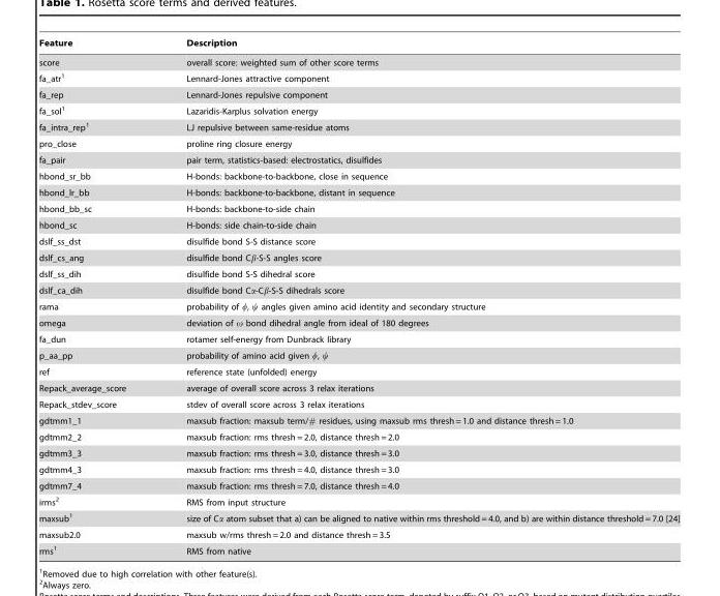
<table><thead><tr><td>Feature</td><td>Description</td></tr></thead><tbody><tr><td>score</td><td>overall score: weighted sum of other score terms</td></tr><tr><td>fa_atr<sup>1</sup></td><td>Lennard-Jones attractive component</td></tr><tr><td>fa_rep</td><td>Lennard-Jones repulsive component</td></tr><tr><td>fa_sol<sup>1</sup></td><td>Lazaridis-Karplus solvation energy</td></tr><tr><td>fa_intra_rep<sup>1</sup></td><td>LJ repulsive between same-residue atoms</td></tr><tr><td>pro_close</td><td>proline ring closure energy</td></tr><tr><td>fa_pair</td><td>pair term, statistics-based: electrostatics, disulfides</td></tr><tr><td>hbond_sr_bb</td><td>H-bonds: backbone-to-backbone, close in sequence</td></tr><tr><td>hbond_lr_bb</td><td>H-bonds: backbone-to-backbone, distant in sequence</td></tr><tr><td>hbond_bb_sc</td><td>H-bonds: backbone-to-side chain</td></tr><tr><td>hbond_sc</td><td>H-bonds: side chain-to-side chain</td></tr><tr><td>dslf_ss_dst</td><td>disulfide bond S-S distance score</td></tr><tr><td>dslf_cs_ang</td><td>disulfide bond Cb-S-S angles score</td></tr><tr><td>dslf_ss_dih</td><td>disulfide bond S-S dihedral score</td></tr><tr><td>dslf_ca_dih</td><td>disulfide bond Ca-Cb-S-S dihedrals score</td></tr><tr><td>rama</td><td>probability of w, y angles given amino acid identity and secondary structure</td></tr><tr><td>omega</td><td>deviation of v bond dihedral angle from ideal of 180 degrees</td></tr><tr><td>fa_dun</td><td>rotamer self-energy from Dunbrack library</td></tr><tr><td>p_aa_pp</td><td>probability of amino acid given w, y</td></tr><tr><td>ref</td><td>reference state (unfolded) energy</td></tr><tr><td>Repack_average_score</td><td>average of overall score across 3 relax iterations</td></tr><tr><td>Repack_stdev_score</td><td>stdev of overall score across 3 relax iterations</td></tr><tr><td>gdtmm1_1</td><td>maxsub fraction: maxsub term/# residues, using maxsub rms thresh = 1.0 and distance thresh = 1.0</td></tr><tr><td>gdtmm2_2</td><td>maxsub fraction: rms thresh = 2.0, distance thresh = 2.0</td></tr><tr><td>gdtmm3_3</td><td>maxsub fraction: rms thresh = 3.0, distance thresh = 3.0</td></tr><tr><td>gdtmm4_3</td><td>maxsub fraction: rms thresh = 4.0, distance thresh = 3.0</td></tr><tr><td>gdtmm7_4</td><td>maxsub fraction: rms thresh = 7.0, distance thresh = 4.0</td></tr><tr><td>irms<sup>2</sup></td><td>RMS from input structure</td></tr><tr><td>maxsub<sup>1</sup></td><td>size of Ca atom subset that a) can be aligned to native within rms threshold = 4.0, and b) are within distance threshold = 7.0 [24]</td></tr><tr><td>maxsub2.0</td><td>maxsub w/rms thresh = 2.0 and distance thresh = 3.5</td></tr><tr><td>rms<sup>1</sup></td><td>RMS from native</td></tr></tbody></table>